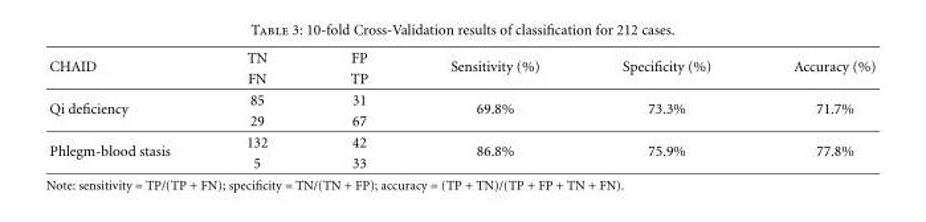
<table><thead><tr><td rowspan="2">CHAID</td><td rowspan="2">TN FN</td><td rowspan="2">FP TP</td><td rowspan="2">Sensitivity (%)</td><td rowspan="2">Specificity (%)</td><td rowspan="2">Accuracy (%)</td></tr><tr></tr></thead><tbody><tr><td rowspan="2">Qi deficiency</td><td>85</td><td>31</td><td rowspan="2">69.8%</td><td rowspan="2">73.3%</td><td rowspan="2">71.7%</td></tr><tr><td>29</td><td>67</td></tr><tr><td rowspan="2">Phlegm-blood stasis</td><td>132</td><td>42</td><td rowspan="2">86.8%</td><td rowspan="2">75.9%</td><td rowspan="2">77.8%</td></tr><tr><td>5</td><td>33</td></tr></tbody></table>